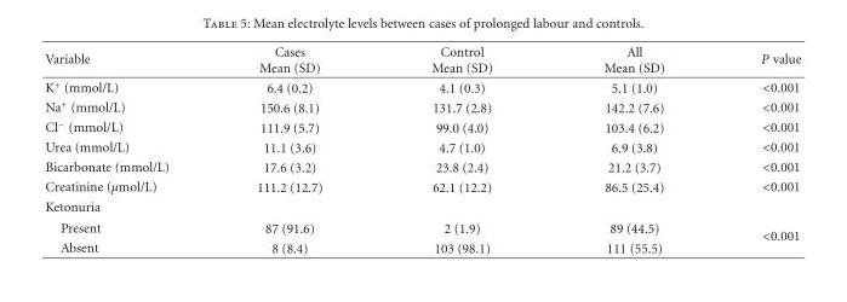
<table><thead><tr><td>Variable</td><td>Cases Mean (SD)</td><td>Control Mean (SD)</td><td>All Mean (SD)</td><td>P value</td></tr></thead><tbody><tr><td>K<sup>+</sup> (mmol/L)</td><td>6.4 (0.2)</td><td>4.1 (0.3)</td><td>5.1 (1.0)</td><td>&lt;0.001</td></tr><tr><td>Na<sup>+</sup> (mmol/L)</td><td>150.6 (8.1)</td><td>131.7 (2.8)</td><td>142.2 (7.6)</td><td>&lt;0.001</td></tr><tr><td>Cl<sup>−</sup> (mmol/L)</td><td>111.9 (5.7)</td><td>99.0 (4.0)</td><td>103.4 (6.2)</td><td>&lt;0.001</td></tr><tr><td>Urea (mmol/L)</td><td>11.1 (3.6)</td><td>4.7 (1.0)</td><td>6.9 (3.8)</td><td>&lt;0.001</td></tr><tr><td>Bicarbonate (mmol/L)</td><td>17.6 (3.2)</td><td>23.8 (2.4)</td><td>21.2 (3.7)</td><td>&lt;0.001</td></tr><tr><td>Creatinine (μmol/L)</td><td>111.2 (12.7)</td><td>62.1 (12.2)</td><td>86.5 (25.4)</td><td>&lt;0.001</td></tr><tr><td colspan="5">Ketonuria</td></tr><tr><td>Present</td><td>87 (91.6)</td><td>2 (1.9)</td><td>89 (44.5)</td><td rowspan="2">&lt;0.001</td></tr><tr><td>Absent</td><td>8 (8.4)</td><td>103 (98.1)</td><td>111 (55.5)</td></tr></tbody></table>